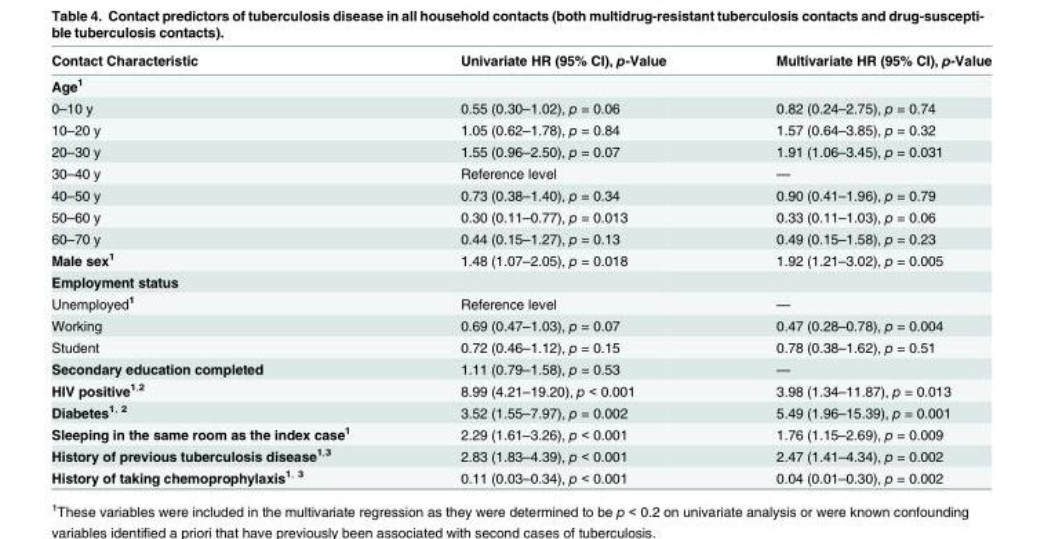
<table><thead><tr><td>Contact Characteristic</td><td>Univariate HR (95% CI), p-Value</td><td>Multivariate HR (95% CI), p-Value</td></tr></thead><tbody><tr><td colspan="3">Age<sup>1</sup></td></tr><tr><td>0–10 y</td><td>0.55 (0.30–1.02), p = 0.06</td><td>0.82 (0.24–2.75), p = 0.74</td></tr><tr><td>10–20 y</td><td>1.05 (0.62–1.78), p = 0.84</td><td>1.57 (0.64–3.85), p = 0.32</td></tr><tr><td>20–30 y</td><td>1.55 (0.96–2.50), p = 0.07</td><td>1.91 (1.06–3.45), p = 0.031</td></tr><tr><td>30–40 y</td><td>Reference level</td><td>—</td></tr><tr><td>40–50 y</td><td>0.73 (0.38–1.40), p = 0.34</td><td>0.90 (0.41–1.96), p = 0.79</td></tr><tr><td>50–60 y</td><td>0.30 (0.11–0.77), p = 0.013</td><td>0.33 (0.11–1.03), p = 0.06</td></tr><tr><td>60–70 y</td><td>0.44 (0.15–1.27), p = 0.13</td><td>0.49 (0.15–1.58), p = 0.23</td></tr><tr><td>Male sex<sup>1</sup></td><td>1.48 (1.07–2.05), p = 0.018</td><td>1.92 (1.21–3.02), p = 0.005</td></tr><tr><td colspan="3">Employment status</td></tr><tr><td>Unemployed<sup>1</sup></td><td>Reference level</td><td>—</td></tr><tr><td>Working</td><td>0.69 (0.47–1.03), p = 0.07</td><td>0.47 (0.28–0.78), p = 0.004</td></tr><tr><td>Student</td><td>0.72 (0.46–1.12), p = 0.15</td><td>0.78 (0.38–1.62), p = 0.51</td></tr><tr><td>Secondary education completed</td><td>1.11 (0.79–1.58), p = 0.53</td><td>—</td></tr><tr><td>HIV positive<sup>1,2</sup></td><td>8.99 (4.21–19.20), p &lt; 0.001</td><td>3.98 (1.34–11.87), p = 0.013</td></tr><tr><td>Diabetes<sup>1, 2</sup></td><td>3.52 (1.55–7.97), p = 0.002</td><td>5.49 (1.96–15.39), p = 0.001</td></tr><tr><td>Sleeping in the same room as the index case<sup>1</sup></td><td>2.29 (1.61–3.26), p &lt; 0.001</td><td>1.76 (1.15–2.69), p = 0.009</td></tr><tr><td>History of previous tuberculosis disease<sup>1,3</sup></td><td>2.83 (1.83–4.39), p &lt; 0.001</td><td>2.47 (1.41–4.34), p = 0.002</td></tr><tr><td>History of taking chemoprophylaxis<sup>1, 3</sup></td><td>0.11 (0.03–0.34), p &lt; 0.001</td><td>0.04 (0.01–0.30), p = 0.002</td></tr></tbody></table>